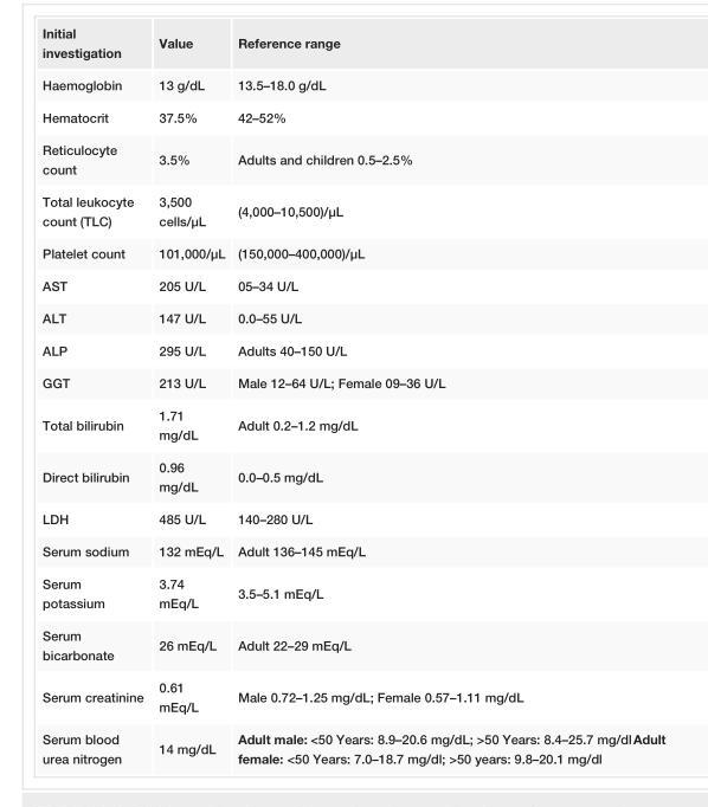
<table><tbody><tr><td>investigation</td><td>Value</td><td>Reference range</td></tr><tr><td>Haemoglobin</td><td>13 g/dL</td><td>13.5–18.0 g/dL</td></tr><tr><td>Hematocrit</td><td>37.5%</td><td>42–52%</td></tr><tr><td>Reticulocyte count</td><td>3.5%</td><td>Adults and children 0.5–2.5%</td></tr><tr><td>Total leukocyte count (TLC)</td><td>3,500 cells/µL</td><td>(4,000–10,500)/µL</td></tr><tr><td>Platelet count</td><td>101,000/µL</td><td>(150,000–400,000)/µL</td></tr><tr><td>AST</td><td>205 U/L</td><td>05–34 U/L</td></tr><tr><td>ALT</td><td>147 U/L</td><td>0.0–55 U/L</td></tr><tr><td>ALP</td><td>295 U/L</td><td>Adults 40–150 U/L</td></tr><tr><td>GGT</td><td>213 U/L</td><td>Male 12–64 U/L; Female 09–36 U/L</td></tr><tr><td>Total bilirubin</td><td>1.71 mg/dL</td><td>Adult 0.2–1.2 mg/dL</td></tr><tr><td>Direct bilirubin</td><td>0.96 mg/dL</td><td>0.0–0.5 mg/dL</td></tr><tr><td>LDH</td><td>485 U/L</td><td>140–280 U/L</td></tr><tr><td>Serum sodium</td><td>132 mEq/L</td><td>Adult 136–145 mEq/L</td></tr><tr><td>Serum potassium</td><td>3.74 mEq/L</td><td>3.5–5.1 mEq/L</td></tr><tr><td>Serum bicarbonate</td><td>26 mEq/L</td><td>Adult 22–29 mEq/L</td></tr><tr><td>Serum creatinine</td><td>0.61 mEq/L</td><td>Male 0.72–1.25 mg/dL; Female 0.57–1.11 mg/dL</td></tr><tr><td>Serum blood urea nitrogen</td><td>14 mg/dL</td><td>Adult male: &lt;50 Years: 8.9–20.6 mg/dL; &gt;50 Years: 8.4–25.7 mg/dl Adult female: &lt;50 Years: 7.0–18.7 mg/dl; &gt;50 years: 9.8–20.1 mg/dl</td></tr></tbody></table>